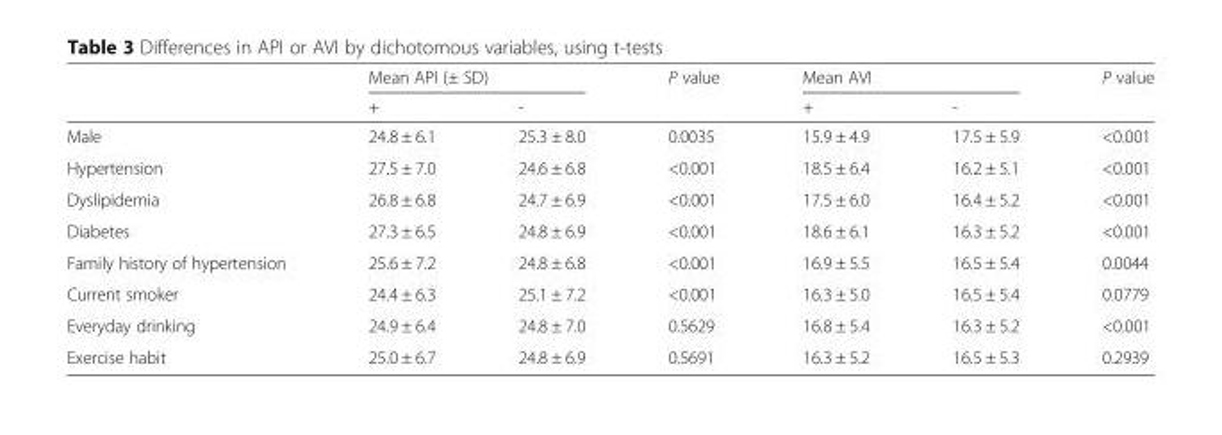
<table><thead><tr><td rowspan="2"></td><td colspan="2">Mean API (± SD)</td><td rowspan="2">P value</td><td colspan="2">Mean AVI</td><td rowspan="2">P value</td></tr><tr><td>+</td><td>-</td><td>+</td><td>-</td></tr></thead><tbody><tr><td>Male</td><td>24.8 ± 6.1</td><td>25.3 ± 8.0</td><td>0.0035</td><td>15.9 ± 4.9</td><td>17.5 ± 5.9</td><td>&lt;0.001</td></tr><tr><td>Hypertension</td><td>27.5 ± 7.0</td><td>24.6 ± 6.8</td><td>&lt;0.001</td><td>18.5 ± 6.4</td><td>16.2 ± 5.1</td><td>&lt;0.001</td></tr><tr><td>Dyslipidemia</td><td>26.8 ± 6.8</td><td>24.7 ± 6.9</td><td>&lt;0.001</td><td>17.5 ± 6.0</td><td>16.4 ± 5.2</td><td>&lt;0.001</td></tr><tr><td>Diabetes</td><td>27.3 ± 6.5</td><td>24.8 ± 6.9</td><td>&lt;0.001</td><td>18.6 ± 6.1</td><td>16.3 ± 5.2</td><td>&lt;0.001</td></tr><tr><td>Family history of hypertension</td><td>25.6 ± 7.2</td><td>24.8 ± 6.8</td><td>&lt;0.001</td><td>16.9 ± 5.5</td><td>16.5 ± 5.4</td><td>0.0044</td></tr><tr><td>Current smoker</td><td>24.4 ± 6.3</td><td>25.1 ± 7.2</td><td>&lt;0.001</td><td>16.3 ± 5.0</td><td>16.5 ± 5.4</td><td>0.0779</td></tr><tr><td>Everyday drinking</td><td>24.9 ± 6.4</td><td>24.8 ± 7.0</td><td>0.5629</td><td>16.8 ± 5.4</td><td>16.3 ± 5.2</td><td>&lt;0.001</td></tr><tr><td>Exercise habit</td><td>25.0 ± 6.7</td><td>24.8 ± 6.9</td><td>0.5691</td><td>16.3 ± 5.2</td><td>16.5 ± 5.3</td><td>0.2939</td></tr></tbody></table>